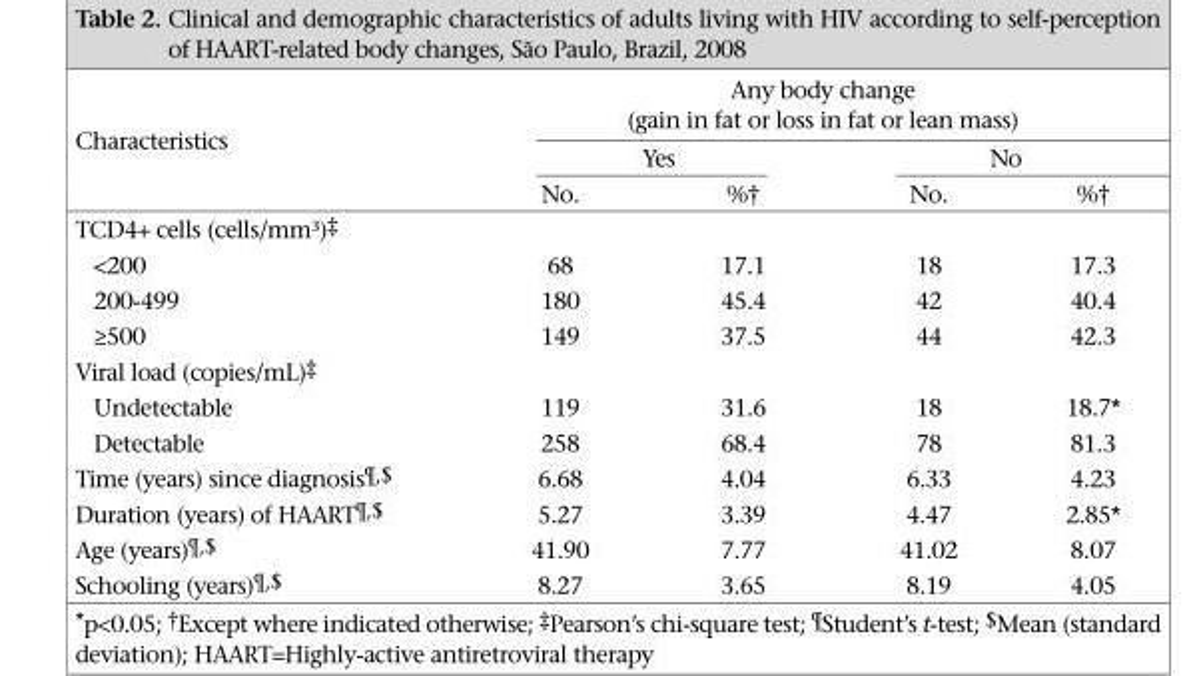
<table><thead><tr><td rowspan="3">Characteristics</td><td colspan="4">Any body change (gain in fat or loss in fat or lean mass)</td></tr><tr><td colspan="2">Yes</td><td colspan="2">No</td></tr><tr><td>No.</td><td>%†</td><td>No.</td><td>%†</td></tr></thead><tbody><tr><td colspan="5">TCD4+ cells (cells/mm³)‡</td></tr><tr><td>&lt;200</td><td>68</td><td>17.1</td><td>18</td><td>17.3</td></tr><tr><td>200-499</td><td>180</td><td>45.4</td><td>42</td><td>40.4</td></tr><tr><td>≥500</td><td>149</td><td>37.5</td><td>44</td><td>42.3</td></tr><tr><td colspan="5">Viral load (copies/mL)‡</td></tr><tr><td>Undetectable</td><td>119</td><td>31.6</td><td>18</td><td>18.7*</td></tr><tr><td>Detectable</td><td>258</td><td>68.4</td><td>78</td><td>81.3</td></tr><tr><td>Time (years) since diagnosis¶,$</td><td>6.68</td><td>4.04</td><td>6.33</td><td>4.23</td></tr><tr><td>Duration (years) of HAART¶,$</td><td>5.27</td><td>3.39</td><td>4.47</td><td>2.85*</td></tr><tr><td>Age (years)¶,$</td><td>41.90</td><td>7.77</td><td>41.02</td><td>8.07</td></tr><tr><td>Schooling (years)¶,$</td><td>8.27</td><td>3.65</td><td>8.19</td><td>4.05</td></tr></tbody></table>